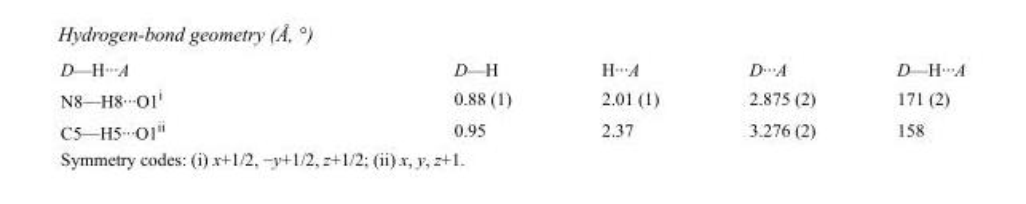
<table><tbody><tr><td>D—H···A</td><td>D—H</td><td>H···A</td><td>D···A</td><td>D—H···A</td></tr><tr><td>N8—H8···O1<sup>i</sup></td><td>0.88 (1)</td><td>2.01 (1)</td><td>2.875 (2)</td><td>171 (2)</td></tr><tr><td>C5—H5···O1<sup>ii</sup></td><td>0.95</td><td>2.37</td><td>3.276 (2)</td><td>158</td></tr></tbody></table>